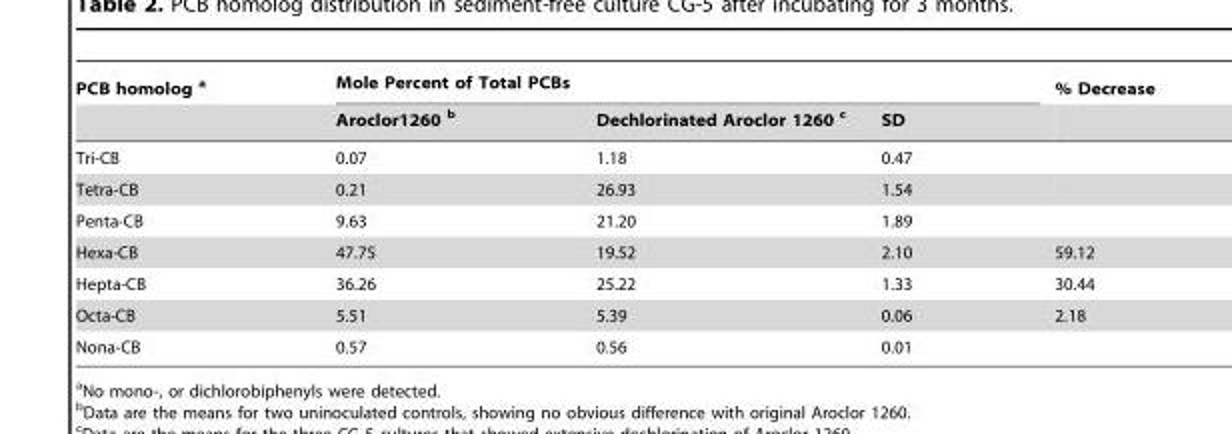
<table><thead><tr><td rowspan="2">PCB homolog a</td><td colspan="3">Mole Percent of Total PCBs</td><td rowspan="2">% Decrease</td></tr><tr><td>Aroclor1260 b</td><td>Dechlorinated Aroclor 1260 c</td><td>SD</td></tr></thead><tbody><tr><td>Tri-CB</td><td>0.07</td><td>1.18</td><td>0.47</td><td></td></tr><tr><td>Tetra-CB</td><td>0.21</td><td>26.93</td><td>1.54</td><td></td></tr><tr><td>Penta-CB</td><td>9.63</td><td>21.20</td><td>1.89</td><td></td></tr><tr><td>Hexa-CB</td><td>47.75</td><td>19.52</td><td>2.10</td><td>59.12</td></tr><tr><td>Hepta-CB</td><td>36.26</td><td>25.22</td><td>1.33</td><td>30.44</td></tr><tr><td>Octa-CB</td><td>5.51</td><td>5.39</td><td>0.06</td><td>2.18</td></tr><tr><td>Nona-CB</td><td>0.57</td><td>0.56</td><td>0.01</td><td></td></tr></tbody></table>